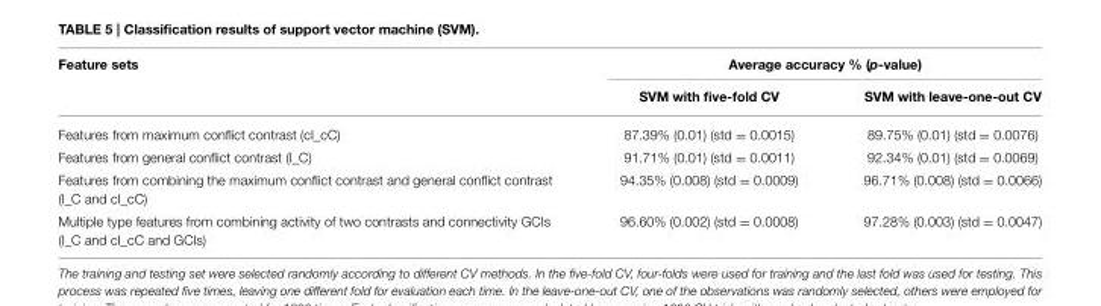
<table><thead><tr><td rowspan="2">Feature sets</td><td colspan="2">Average accuracy % (p-value)</td></tr><tr><td>SVM with five-fold CV</td><td>SVM with leave-one-out CV</td></tr></thead><tbody><tr><td>Features from maximum conflict contrast (cI_cC)</td><td>87.39% (0.01) (std = 0.0015)</td><td>89.75% (0.01) (std = 0.0076)</td></tr><tr><td>Features from general conflict contrast (I_C)</td><td>91.71% (0.01) (std = 0.0011)</td><td>92.34% (0.01) (std = 0.0069)</td></tr><tr><td>Features from combining the maximum conflict contrast and general conflict contrast (I_C and cI_cC)</td><td>94.35% (0.008) (std = 0.0009)</td><td>96.71% (0.008) (std = 0.0066)</td></tr><tr><td>Multiple type features from combining activity of two contrasts and connectivity GCIs (I_C and cI_cC and GCIs)</td><td>96.60% (0.002) (std = 0.0008)</td><td>97.28% (0.003) (std = 0.0047)</td></tr></tbody></table>